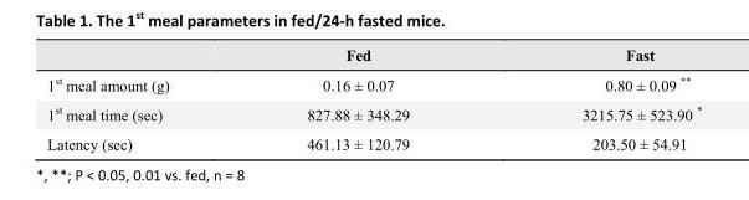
<table><thead><tr><td></td><td>Fed</td><td>Fast</td></tr></thead><tbody><tr><td>1<sup>st</sup> meal amount (g)</td><td>0.16 ± 0.07</td><td>0.80 ± 0.09 **</td></tr><tr><td>1<sup>st</sup> meal time (sec)</td><td>827.88 ± 348.29</td><td>3215.75 ± 523.90 *</td></tr><tr><td>Latency (sec)</td><td>461.13 ± 120.79</td><td>203.50 ± 54.91</td></tr></tbody></table>